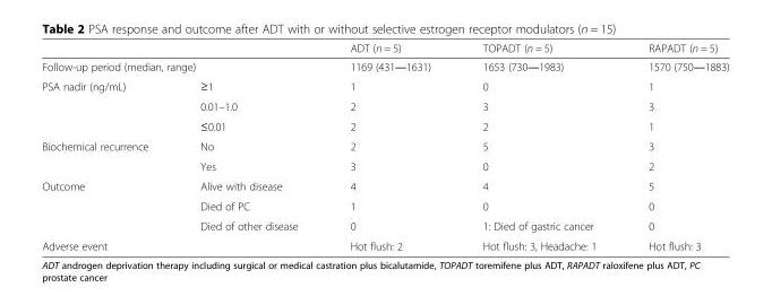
<table><thead><tr><td></td><td></td><td>ADT (n = 5)</td><td>TOPADT (n = 5)</td><td>RAPADT (n = 5)</td></tr></thead><tbody><tr><td colspan="2">Follow-up period (median, range)</td><td>1169 (431―1631)</td><td>1653 (730―1983)</td><td>1570 (750―1883)</td></tr><tr><td rowspan="3">PSA nadir (ng/mL)</td><td>≥1</td><td>1</td><td>0</td><td>1</td></tr><tr><td>0.01–1.0</td><td>2</td><td>3</td><td>3</td></tr><tr><td>≤0.01</td><td>2</td><td>2</td><td>1</td></tr><tr><td rowspan="2">Biochemical recurrence</td><td>No</td><td>2</td><td>5</td><td>3</td></tr><tr><td>Yes</td><td>3</td><td>0</td><td>2</td></tr><tr><td rowspan="3">Outcome</td><td>Alive with disease</td><td>4</td><td>4</td><td>5</td></tr><tr><td>Died of PC</td><td>1</td><td>0</td><td>0</td></tr><tr><td>Died of other disease</td><td>0</td><td>1: Died of gastric cancer</td><td>0</td></tr><tr><td>Adverse event</td><td></td><td>Hot flush: 2</td><td>Hot flush: 3, Headache: 1</td><td>Hot flush: 3</td></tr></tbody></table>